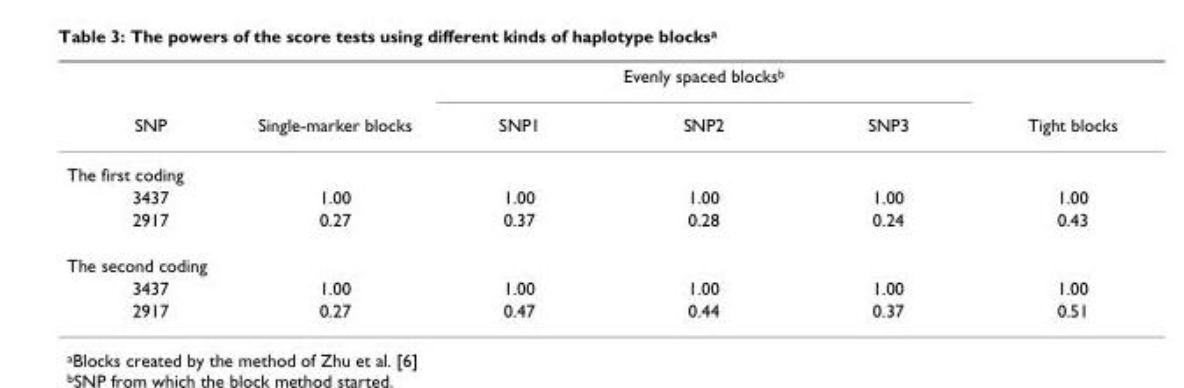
<table><thead><tr><td rowspan="2">SNP</td><td rowspan="2">Single-marker blocks</td><td colspan="3">Evenly spaced blocks<sup>b</sup></td><td rowspan="2">Tight blocks</td></tr><tr><td>SNP1</td><td>SNP2</td><td>SNP3</td></tr></thead><tbody><tr><td colspan="6">The first coding</td></tr><tr><td>3437</td><td>1.00</td><td>1.00</td><td>1.00</td><td>1.00</td><td>1.00</td></tr><tr><td>2917</td><td>0.27</td><td>0.37</td><td>0.28</td><td>0.24</td><td>0.43</td></tr><tr><td colspan="6">The second coding</td></tr><tr><td>3437</td><td>1.00</td><td>1.00</td><td>1.00</td><td>1.00</td><td>1.00</td></tr><tr><td>2917</td><td>0.27</td><td>0.47</td><td>0.44</td><td>0.37</td><td>0.51</td></tr></tbody></table>